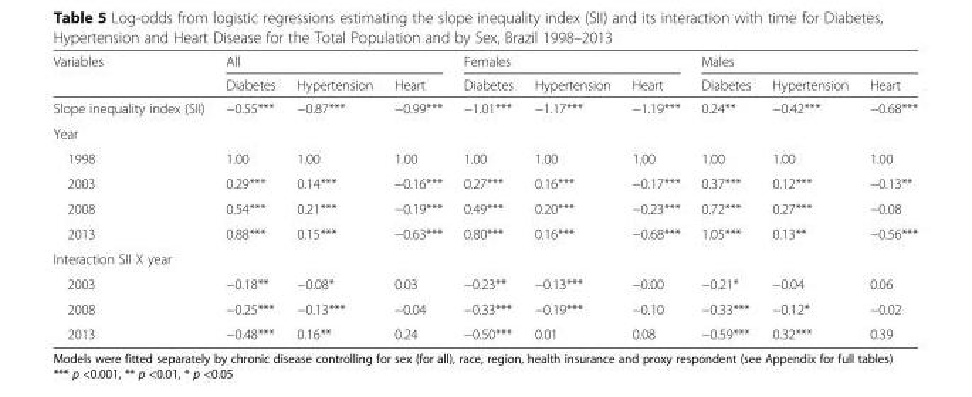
<table><thead><tr><td rowspan="2">Variables</td><td colspan="3">All</td><td colspan="3">Females</td><td colspan="3">Males</td></tr><tr><td>Diabetes</td><td>Hypertension</td><td>Heart</td><td>Diabetes</td><td>Hypertension</td><td>Heart</td><td>Diabetes</td><td>Hypertension</td><td>Heart</td></tr></thead><tbody><tr><td>Slope inequality index (SII)</td><td>−0.55***</td><td>−0.87***</td><td>−0.99***</td><td>−1.01***</td><td>−1.17***</td><td>−1.19***</td><td>0.24**</td><td>−0.42***</td><td>−0.68***</td></tr><tr><td colspan="10">Year</td></tr><tr><td>1998</td><td>1.00</td><td>1.00</td><td>1.00</td><td>1.00</td><td>1.00</td><td>1.00</td><td>1.00</td><td>1.00</td><td>1.00</td></tr><tr><td>2003</td><td>0.29***</td><td>0.14***</td><td>−0.16***</td><td>0.27***</td><td>0.16***</td><td>−0.17***</td><td>0.37***</td><td>0.12***</td><td>−0.13**</td></tr><tr><td>2008</td><td>0.54***</td><td>0.21***</td><td>−0.19***</td><td>0.49***</td><td>0.20***</td><td>−0.23***</td><td>0.72***</td><td>0.27***</td><td>−0.08</td></tr><tr><td>2013</td><td>0.88***</td><td>0.15***</td><td>−0.63***</td><td>0.80***</td><td>0.16***</td><td>−0.68***</td><td>1.05***</td><td>0.13**</td><td>−0.56***</td></tr><tr><td colspan="10">Interaction SII X year</td></tr><tr><td>2003</td><td>−0.18**</td><td>−0.08*</td><td>0.03</td><td>−0.23**</td><td>−0.13***</td><td>−0.00</td><td>−0.21*</td><td>−0.04</td><td>0.06</td></tr><tr><td>2008</td><td>−0.25***</td><td>−0.13***</td><td>−0.04</td><td>−0.33***</td><td>−0.19***</td><td>−0.10</td><td>−0.33***</td><td>−0.12*</td><td>−0.02</td></tr><tr><td>2013</td><td>−0.48***</td><td>0.16**</td><td>0.24</td><td>−0.50***</td><td>0.01</td><td>0.08</td><td>−0.59***</td><td>0.32***</td><td>0.39</td></tr></tbody></table>